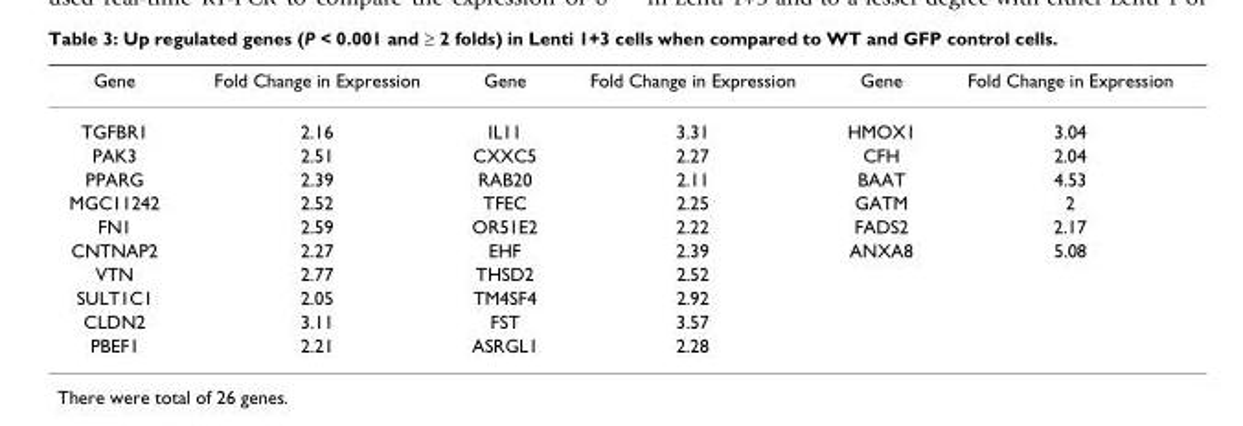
<table><thead><tr><td>Gene</td><td>Fold Change in Expression</td><td>Gene</td><td>Fold Change in Expression</td><td>Gene</td><td>Fold Change in Expression</td></tr></thead><tbody><tr><td>TGFBR1</td><td>2.16</td><td>IL11</td><td>3.31</td><td>HMOX1</td><td>3.04</td></tr><tr><td>PAK3</td><td>2.51</td><td>CXXC5</td><td>2.27</td><td>CFH</td><td>2.04</td></tr><tr><td>PPARG</td><td>2.39</td><td>RAB20</td><td>2.11</td><td>BAAT</td><td>4.53</td></tr><tr><td>MGC11242</td><td>2.52</td><td>TFEC</td><td>2.25</td><td>GATM</td><td>2</td></tr><tr><td>FN1</td><td>2.59</td><td>OR51E2</td><td>2.22</td><td>FADS2</td><td>2.17</td></tr><tr><td>CNTNAP2</td><td>2.27</td><td>EHF</td><td>2.39</td><td>ANXA8</td><td>5.08</td></tr><tr><td>VTN</td><td>2.77</td><td>THSD2</td><td>2.52</td><td></td><td></td></tr><tr><td>SULT1C1</td><td>2.05</td><td>TM4SF4</td><td>2.92</td><td></td><td></td></tr><tr><td>CLDN2</td><td>3.11</td><td>FST</td><td>3.57</td><td></td><td></td></tr><tr><td>PBEF1</td><td>2.21</td><td>ASRGL1</td><td>2.28</td><td></td><td></td></tr></tbody></table>